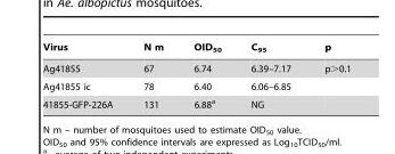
<table><thead><tr><td>Virus</td><td>N m</td><td>OID<sub>50</sub></td><td>C<sub>95</sub></td><td>p</td></tr></thead><tbody><tr><td>Ag41855</td><td>67</td><td>6.74</td><td>6.39–7.17</td><td>p&gt;0.1</td></tr><tr><td>Ag41855 ic</td><td>78</td><td>6.40</td><td>6.06–6.85</td><td></td></tr><tr><td>41855-GFP-226A</td><td>131</td><td>6.88<sup>a</sup></td><td>NG</td><td></td></tr></tbody></table>